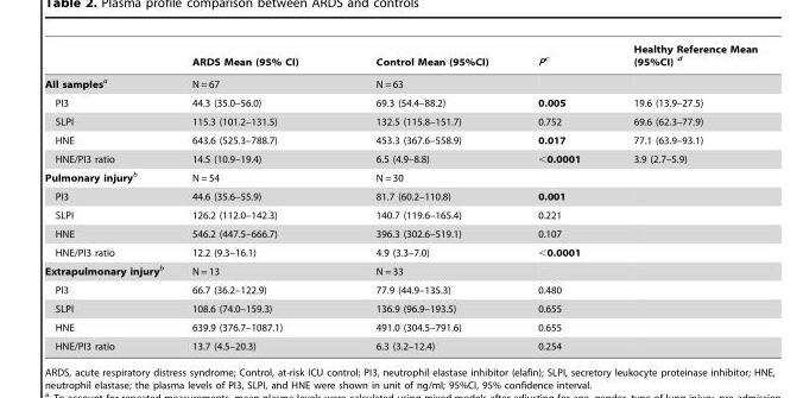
<table><thead><tr><td></td><td>ARDS Mean (95% CI)</td><td>Control Mean (95%CI)</td><td>Pc</td><td>Healthy Reference Mean (95%CI) d</td></tr></thead><tbody><tr><td>All samplesa</td><td>N = 67</td><td>N = 63</td><td></td><td></td></tr><tr><td>PI3</td><td>44.3 (35.0–56.0)</td><td>69.3 (54.4–88.2)</td><td>0.005</td><td>19.6 (13.9–27.5)</td></tr><tr><td>SLPI</td><td>115.3 (101.2–131.5)</td><td>132.5 (115.8–151.7)</td><td>0.752</td><td>69.6 (62.3–77.9)</td></tr><tr><td>HNE</td><td>643.6 (525.3–788.7)</td><td>453.3 (367.6–558.9)</td><td>0.017</td><td>77.1 (63.9–93.1)</td></tr><tr><td>HNE/PI3 ratio</td><td>14.5 (10.9–19.4)</td><td>6.5 (4.9–8.8)</td><td>&lt;0.0001</td><td>3.9 (2.7–5.9)</td></tr><tr><td>Pulmonary injuryb</td><td>N = 54</td><td>N = 30</td><td></td><td></td></tr><tr><td>PI3</td><td>44.6 (35.6–55.9)</td><td>81.7 (60.2–110.8)</td><td>0.001</td><td></td></tr><tr><td>SLPI</td><td>126.2 (112.0–142.3)</td><td>140.7 (119.6–165.4)</td><td>0.221</td><td></td></tr><tr><td>HNE</td><td>546.2 (447.5–666.7)</td><td>396.3 (302.6–519.1)</td><td>0.107</td><td></td></tr><tr><td>HNE/PI3 ratio</td><td>12.2 (9.3–16.1)</td><td>4.9 (3.3–7.0)</td><td>&lt;0.0001</td><td></td></tr><tr><td>Extrapulmonary injuryb</td><td>N = 13</td><td>N = 33</td><td></td><td></td></tr><tr><td>PI3</td><td>66.7 (36.2–122.9)</td><td>77.9 (44.9–135.3)</td><td>0.480</td><td></td></tr><tr><td>SLPI</td><td>108.6 (74.0–159.3)</td><td>136.9 (96.9–193.5)</td><td>0.655</td><td></td></tr><tr><td>HNE</td><td>639.9 (376.7–1087.1)</td><td>491.0 (304.5–791.6)</td><td>0.655</td><td></td></tr><tr><td>HNE/PI3 ratio</td><td>13.7 (4.5–20.3)</td><td>6.3 (3.2–12.4)</td><td>0.254</td><td></td></tr></tbody></table>